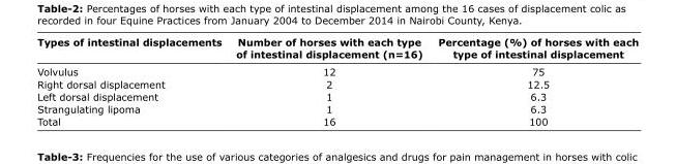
<table><thead><tr><td>Types of intestinal displacements</td><td>Number of horses with each type of intestinal displacement (n=16)</td><td>Percentage (%) of horses with each type of intestinal displacement</td></tr></thead><tbody><tr><td>Volvulus</td><td>12</td><td>75</td></tr><tr><td>Right dorsal displacement</td><td>2</td><td>12.5</td></tr><tr><td>Left dorsal displacement</td><td>1</td><td>6.3</td></tr><tr><td>Strangulating lipoma</td><td>1</td><td>6.3</td></tr><tr><td>Total</td><td>16</td><td>100</td></tr></tbody></table>